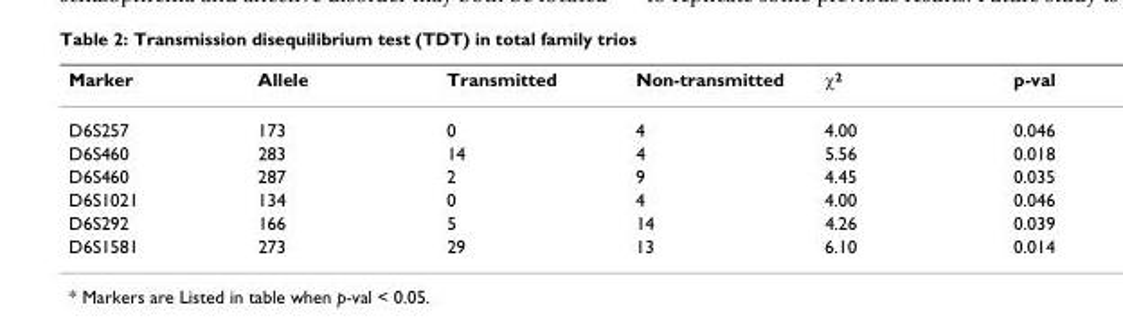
<table><thead><tr><td>Marker</td><td>Allele</td><td>Transmitted</td><td>Non-transmitted</td><td>χ<sup>2</sup></td><td>p-val</td></tr></thead><tbody><tr><td>D6S257</td><td>173</td><td>0</td><td>4</td><td>4.00</td><td>0.046</td></tr><tr><td>D6S460</td><td>283</td><td>14</td><td>4</td><td>5.56</td><td>0.018</td></tr><tr><td>D6S460</td><td>287</td><td>2</td><td>9</td><td>4.45</td><td>0.035</td></tr><tr><td>D6S1021</td><td>134</td><td>0</td><td>4</td><td>4.00</td><td>0.046</td></tr><tr><td>D6S292</td><td>166</td><td>5</td><td>14</td><td>4.26</td><td>0.039</td></tr><tr><td>D6S1581</td><td>273</td><td>29</td><td>13</td><td>6.10</td><td>0.014</td></tr></tbody></table>